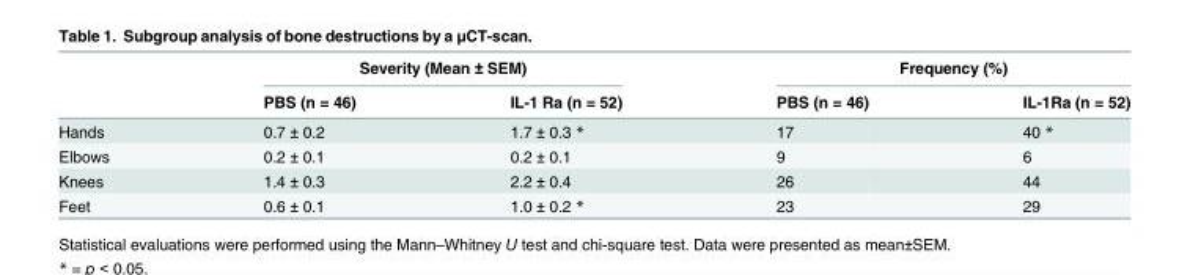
<table><thead><tr><td rowspan="2"></td><td colspan="2">Severity (Mean ± SEM)</td><td colspan="2">Frequency (%)</td></tr><tr><td>PBS (n = 46)</td><td>IL-1 Ra (n = 52)</td><td>PBS (n = 46)</td><td>IL-1Ra (n = 52)</td></tr></thead><tbody><tr><td>Hands</td><td>0.7 ± 0.2</td><td>1.7 ± 0.3 *</td><td>17</td><td>40 *</td></tr><tr><td>Elbows</td><td>0.2 ± 0.1</td><td>0.2 ± 0.1</td><td>9</td><td>6</td></tr><tr><td>Knees</td><td>1.4 ± 0.3</td><td>2.2 ± 0.4</td><td>26</td><td>44</td></tr><tr><td>Feet</td><td>0.6 ± 0.1</td><td>1.0 ± 0.2 *</td><td>23</td><td>29</td></tr></tbody></table>